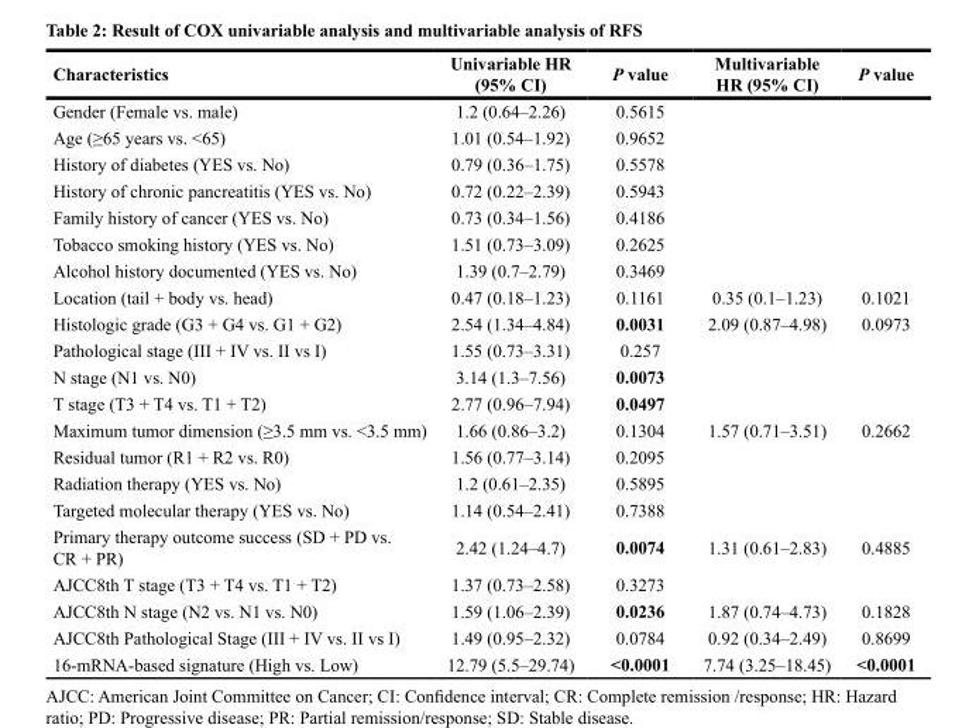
<table><thead><tr><td>Characteristics</td><td>Univariable HR (95% CI)</td><td>P value</td><td>Multivariable HR (95% CI)</td><td>P value</td></tr></thead><tbody><tr><td>Gender (Female vs. male)</td><td>1.2 (0.64–2.26)</td><td>0.5615</td><td></td><td></td></tr><tr><td>Age (≥65 years vs. &lt;65)</td><td>1.01 (0.54–1.92)</td><td>0.9652</td><td></td><td></td></tr><tr><td>History of diabetes (YES vs. No)</td><td>0.79 (0.36–1.75)</td><td>0.5578</td><td></td><td></td></tr><tr><td>History of chronic pancreatitis (YES vs. No)</td><td>0.72 (0.22–2.39)</td><td>0.5943</td><td></td><td></td></tr><tr><td>Family history of cancer (YES vs. No)</td><td>0.73 (0.34–1.56)</td><td>0.4186</td><td></td><td></td></tr><tr><td>Tobacco smoking history (YES vs. No)</td><td>1.51 (0.73–3.09)</td><td>0.2625</td><td></td><td></td></tr><tr><td>Alcohol history documented (YES vs. No)</td><td>1.39 (0.7–2.79)</td><td>0.3469</td><td></td><td></td></tr><tr><td>Location (tail + body vs. head)</td><td>0.47 (0.18–1.23)</td><td>0.1161</td><td>0.35 (0.1–1.23)</td><td>0.1021</td></tr><tr><td>Histologic grade (G3 + G4 vs. G1 + G2)</td><td>2.54 (1.34–4.84)</td><td>0.0031</td><td>2.09 (0.87–4.98)</td><td>0.0973</td></tr><tr><td>Pathological stage (III + IV vs. II vs I)</td><td>1.55 (0.73–3.31)</td><td>0.257</td><td></td><td></td></tr><tr><td>N stage (N1 vs. N0)</td><td>3.14 (1.3–7.56)</td><td>0.0073</td><td></td><td></td></tr><tr><td>T stage (T3 + T4 vs. T1 + T2)</td><td>2.77 (0.96–7.94)</td><td>0.0497</td><td></td><td></td></tr><tr><td>Maximum tumor dimension (≥3.5 mm vs. &lt;3.5 mm)</td><td>1.66 (0.86–3.2)</td><td>0.1304</td><td>1.57 (0.71–3.51)</td><td>0.2662</td></tr><tr><td>Residual tumor (R1 + R2 vs. R0)</td><td>1.56 (0.77–3.14)</td><td>0.2095</td><td></td><td></td></tr><tr><td>Radiation therapy (YES vs. No)</td><td>1.2 (0.61–2.35)</td><td>0.5895</td><td></td><td></td></tr><tr><td>Targeted molecular therapy (YES vs. No)</td><td>1.14 (0.54–2.41)</td><td>0.7388</td><td></td><td></td></tr><tr><td>Primary therapy outcome success (SD + PD vs. CR + PR)</td><td>2.42 (1.24–4.7)</td><td>0.0074</td><td>1.31 (0.61–2.83)</td><td>0.4885</td></tr><tr><td>AJCC8th T stage (T3 + T4 vs. T1 + T2)</td><td>1.37 (0.73–2.58)</td><td>0.3273</td><td></td><td></td></tr><tr><td>AJCC8th N stage (N2 vs. N1 vs. N0)</td><td>1.59 (1.06–2.39)</td><td>0.0236</td><td>1.87 (0.74–4.73)</td><td>0.1828</td></tr><tr><td>AJCC8th Pathological Stage (III + IV vs. II vs I)</td><td>1.49 (0.95–2.32)</td><td>0.0784</td><td>0.92 (0.34–2.49)</td><td>0.8699</td></tr><tr><td>16-mRNA-based signature (High vs. Low)</td><td>12.79 (5.5–29.74)</td><td>&lt;0.0001</td><td>7.74 (3.25–18.45)</td><td>&lt;0.0001</td></tr></tbody></table>